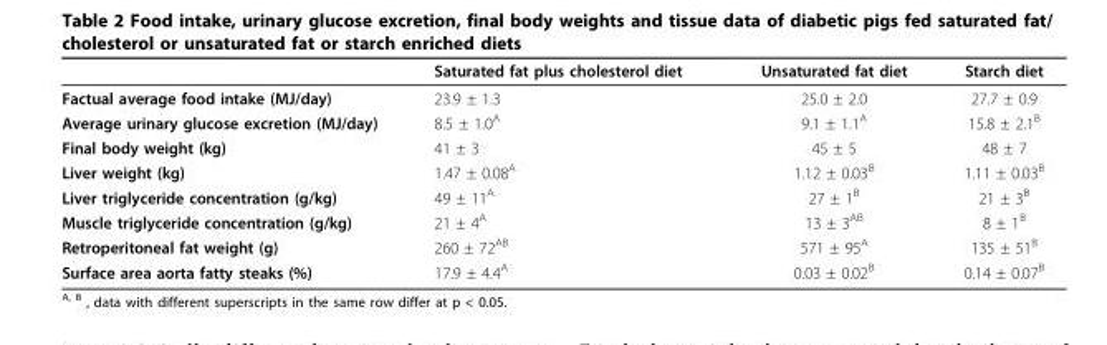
<table><thead><tr><td></td><td>Saturated fat plus cholesterol diet</td><td>Unsaturated fat diet</td><td>Starch diet</td></tr></thead><tbody><tr><td>Factual average food intake (MJ/day)</td><td>23.9 ± 1.3</td><td>25.0 ± 2.0</td><td>27.7 ± 0.9</td></tr><tr><td>Average urinary glucose excretion (MJ/day)</td><td>8.5 ± 1.0<sup>A</sup></td><td>9.1 ± 1.1<sup>A</sup></td><td>15.8 ± 2.1<sup>B</sup></td></tr><tr><td>Final body weight (kg)</td><td>41 ± 3</td><td>45 ± 5</td><td>48 ± 7</td></tr><tr><td>Liver weight (kg)</td><td>1.47 ± 0.08<sup>A</sup></td><td>1.12 ± 0.03<sup>B</sup></td><td>1.11 ± 0.03<sup>B</sup></td></tr><tr><td>Liver triglyceride concentration (g/kg)</td><td>49 ± 11<sup>A</sup></td><td>27 ± 1<sup>B</sup></td><td>21 ± 3<sup>B</sup></td></tr><tr><td>Muscle triglyceride concentration (g/kg)</td><td>21 ± 4<sup>A</sup></td><td>13 ± 3<sup>AB</sup></td><td>8 ± 1<sup>B</sup></td></tr><tr><td>Retroperitoneal fat weight (g)</td><td>260 ± 72<sup>AB</sup></td><td>571 ± 95<sup>A</sup></td><td>135 ± 51<sup>B</sup></td></tr><tr><td>Surface area aorta fatty steaks (%)</td><td>17.9 ± 4.4<sup>A</sup></td><td>0.03 ± 0.02<sup>B</sup></td><td>0.14 ± 0.07<sup>B</sup></td></tr></tbody></table>